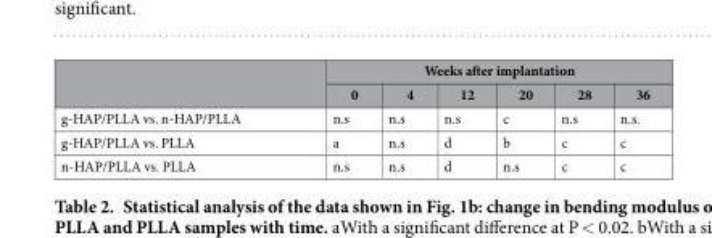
<table><thead><tr><td rowspan="2"></td><td colspan="6">Weeks after implantation</td></tr><tr><td>0</td><td>4</td><td>12</td><td>20</td><td>28</td><td>36</td></tr></thead><tbody><tr><td>g-HAP/PLLA vs. n-HAP/PLLA</td><td>n.s</td><td>n.s</td><td>n.s</td><td>c</td><td>n.s</td><td>n.s.</td></tr><tr><td>g-HAP/PLLA vs. PLLA</td><td>a</td><td>n.s</td><td>d</td><td>b</td><td>c</td><td>c</td></tr><tr><td>n-HAP/PLLA vs. PLLA</td><td>n.s</td><td>n.s</td><td>d</td><td>n.s</td><td>c</td><td>c</td></tr></tbody></table>